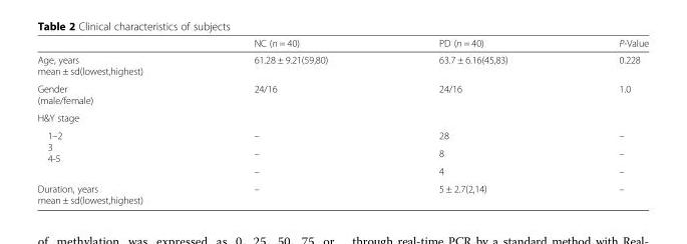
<table><thead><tr><td></td><td>NC (n = 40)</td><td>PD (n = 40)</td><td>P-Value</td></tr></thead><tbody><tr><td>Age, years mean ± sd(lowest,highest)</td><td>61.28 ± 9.21(59,80)</td><td>63.7 ± 6.16(45,83)</td><td>0.228</td></tr><tr><td>Gender (male/female)</td><td>24/16</td><td>24/16</td><td>1.0</td></tr><tr><td colspan="4">H&amp;Y stage</td></tr><tr><td rowspan="3">1–2 3 4-5</td><td>–</td><td>28</td><td>–</td></tr><tr><td>–</td><td>8</td><td>–</td></tr><tr><td>–</td><td>4</td><td>–</td></tr><tr><td>Duration, years mean ± sd(lowest,highest)</td><td>–</td><td>5 ± 2.7(2,14)</td><td>–</td></tr></tbody></table>